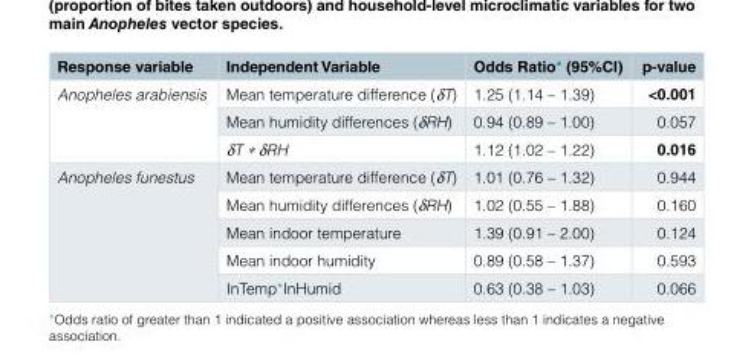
<table><thead><tr><td>Response variable</td><td>Independent Variable</td><td>Odds Ratio* (95%CI)</td><td>p-value</td></tr></thead><tbody><tr><td rowspan="3">Anopheles arabiensis</td><td>Mean temperature difference (δT)</td><td>1.25 (1.14 – 1.39)</td><td>&lt;0.001</td></tr><tr><td>Mean humidity differences (δRH)</td><td>0.94 (0.89 – 1.00)</td><td>0.057</td></tr><tr><td>δT ∗ δRH</td><td>1.12 (1.02 – 1.22)</td><td>0.016</td></tr><tr><td rowspan="5">Anopheles funestus</td><td>Mean temperature difference (δT)</td><td>1.01 (0.76 – 1.32)</td><td>0.944</td></tr><tr><td>Mean humidity differences (δRH)</td><td>1.02 (0.55 – 1.88)</td><td>0.160</td></tr><tr><td>Mean indoor temperature</td><td>1.39 (0.91 – 2.00)</td><td>0.124</td></tr><tr><td>Mean indoor humidity</td><td>0.89 (0.58 – 1.37)</td><td>0.593</td></tr><tr><td>InTemp*InHumid</td><td>0.63 (0.38 – 1.03)</td><td>0.066</td></tr></tbody></table>